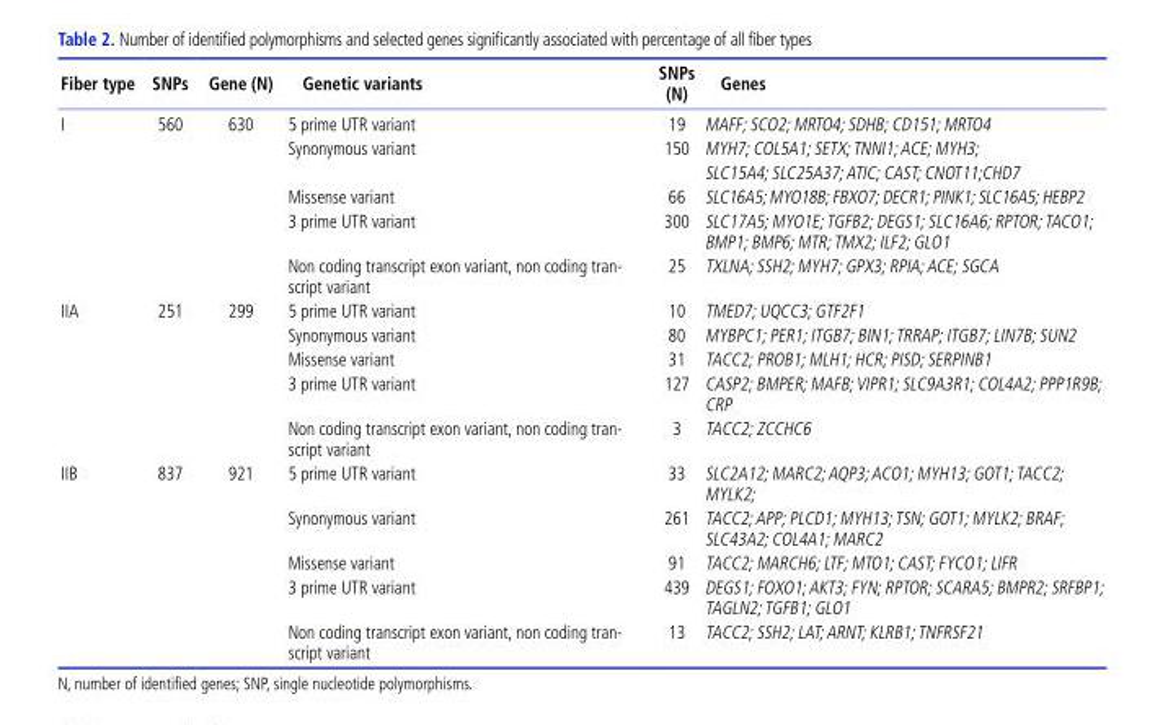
<table><thead><tr><td>Fiber type</td><td>SNPs</td><td>Gene (N)</td><td>Genetic variants</td><td>SNPs (N)</td><td>Genes</td></tr></thead><tbody><tr><td rowspan="5">I</td><td rowspan="5">560</td><td rowspan="5">630</td><td>5 prime UTR variant</td><td>19</td><td>MAFF; SCO2; MRTO4; SDHB; CD151; MRTO4</td></tr><tr><td>Synonymous variant</td><td>150</td><td>MYH7; COL5A1; SETX; TNNI1; ACE; MYH3; SLC15A4; SLC25A37; ATIC; CAST; CNOT11;CHD7</td></tr><tr><td>Missense variant</td><td>66</td><td>SLC16A5; MYO18B; FBXO7; DECR1; PINK1; SLC16A5; HEBP2</td></tr><tr><td>3 prime UTR variant</td><td>300</td><td>SLC17A5; MYO1E; TGFB2; DEGS1; SLC16A6; RPTOR; TACO1; BMP1; BMP6; MTR; TMX2; ILF2; GLO1</td></tr><tr><td>Non coding transcript exon variant, non coding tran- script variant</td><td>25</td><td>TXLNA; SSH2; MYH7; GPX3; RPIA; ACE; SGCA</td></tr><tr><td rowspan="5">IIA</td><td rowspan="5">251</td><td rowspan="5">299</td><td>5 prime UTR variant</td><td>10</td><td>TMED7; UQCC3; GTF2F1</td></tr><tr><td>Synonymous variant</td><td>80</td><td>MYBPC1; PER1; ITGB7; BIN1; TRRAP; ITGB7; LIN7B; SUN2</td></tr><tr><td>Missense variant</td><td>31</td><td>TACC2; PROB1; MLH1; HCR; PISD; SERPINB1</td></tr><tr><td>3 prime UTR variant</td><td>127</td><td>CASP2; BMPER; MAFB; VIPR1; SLC9A3R1; COL4A2; PPP1R9B; CRP</td></tr><tr><td>Non coding transcript exon variant, non coding tran- script variant</td><td>3</td><td>TACC2; ZCCHC6</td></tr><tr><td rowspan="5">IIB</td><td rowspan="5">837</td><td rowspan="5">921</td><td>5 prime UTR variant</td><td>33</td><td>SLC2A12; MARC2; AQP3; ACO1; MYH13; GOT1; TACC2; MYLK2;</td></tr><tr><td>Synonymous variant</td><td>261</td><td>TACC2; APP; PLCD1; MYH13; TSN; GOT1; MYLK2; BRAF; SLC43A2; COL4A1; MARC2</td></tr><tr><td>Missense variant</td><td>91</td><td>TACC2; MARCH6; LTF; MTO1; CAST; FYCO1; LIFR</td></tr><tr><td>3 prime UTR variant</td><td>439</td><td>DEGS1; FOXO1; AKT3; FYN; RPTOR; SCARA5; BMPR2; SRFBP1; TAGLN2; TGFB1; GLO1</td></tr><tr><td>Non coding transcript exon variant, non coding tran- script variant</td><td>13</td><td>TACC2; SSH2; LAT; ARNT; KLRB1; TNFRSF21</td></tr></tbody></table>